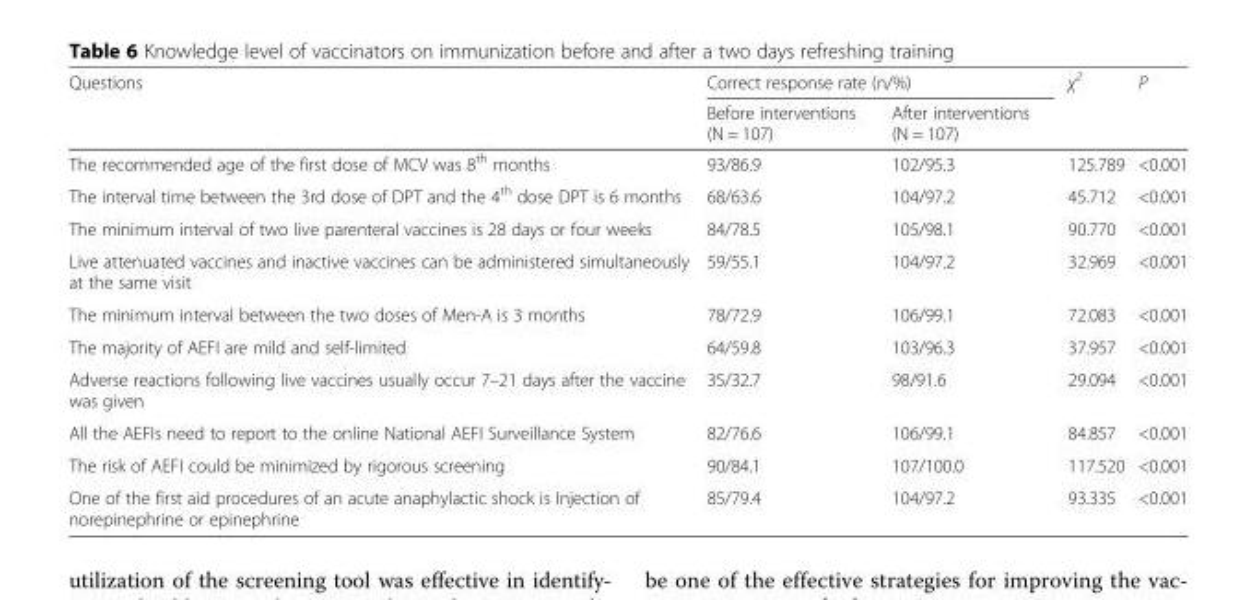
<table><thead><tr><td rowspan="2">Questions</td><td colspan="2">Correct response rate (n/%)</td><td rowspan="2">χ<sup>2</sup></td><td rowspan="2">P</td></tr><tr><td>Before interventions (N = 107)</td><td>After interventions (N = 107)</td></tr></thead><tbody><tr><td>The recommended age of the first dose of MCV was 8<sup>th</sup> months</td><td>93/86.9</td><td>102/95.3</td><td>125.789</td><td>&lt;0.001</td></tr><tr><td>The interval time between the 3rd dose of DPT and the 4<sup>th</sup> dose DPT is 6 months</td><td>68/63.6</td><td>104/97.2</td><td>45.712</td><td>&lt;0.001</td></tr><tr><td>The minimum interval of two live parenteral vaccines is 28 days or four weeks</td><td>84/78.5</td><td>105/98.1</td><td>90.770</td><td>&lt;0.001</td></tr><tr><td>Live attenuated vaccines and inactive vaccines can be administered simultaneously at the same visit</td><td>59/55.1</td><td>104/97.2</td><td>32.969</td><td>&lt;0.001</td></tr><tr><td>The minimum interval between the two doses of Men-A is 3 months</td><td>78/72.9</td><td>106/99.1</td><td>72.083</td><td>&lt;0.001</td></tr><tr><td>The majority of AEFI are mild and self-limited</td><td>64/59.8</td><td>103/96.3</td><td>37.957</td><td>&lt;0.001</td></tr><tr><td>Adverse reactions following live vaccines usually occur 7–21 days after the vaccine was given</td><td>35/32.7</td><td>98/91.6</td><td>29.094</td><td>&lt;0.001</td></tr><tr><td>All the AEFIs need to report to the online National AEFI Surveillance System</td><td>82/76.6</td><td>106/99.1</td><td>84.857</td><td>&lt;0.001</td></tr><tr><td>The risk of AEFI could be minimized by rigorous screening</td><td>90/84.1</td><td>107/100.0</td><td>117.520</td><td>&lt;0.001</td></tr><tr><td>One of the first aid procedures of an acute anaphylactic shock is Injection of norepinephrine or epinephrine</td><td>85/79.4</td><td>104/97.2</td><td>93.335</td><td>&lt;0.001</td></tr></tbody></table>